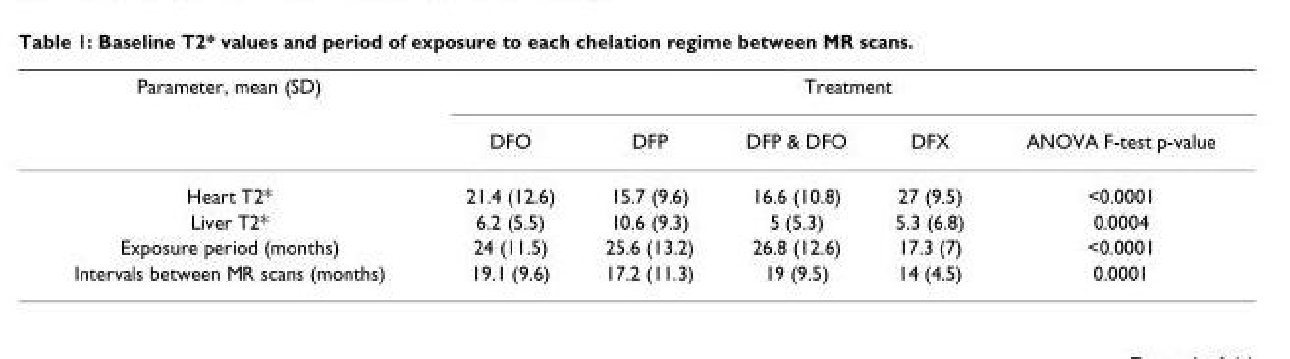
<table><thead><tr><td rowspan="2">Parameter, mean (SD)</td><td colspan="5">Treatment</td></tr><tr><td>DFO</td><td>DFP</td><td>DFP &amp; DFO</td><td>DFX</td><td>ANOVA F-test p-value</td></tr></thead><tbody><tr><td>Heart T2*</td><td>21.4 (12.6)</td><td>15.7 (9.6)</td><td>16.6 (10.8)</td><td>27 (9.5)</td><td>&lt;0.0001</td></tr><tr><td>Liver T2*</td><td>6.2 (5.5)</td><td>10.6 (9.3)</td><td>5 (5.3)</td><td>5.3 (6.8)</td><td>0.0004</td></tr><tr><td>Exposure period (months)</td><td>24 (11.5)</td><td>25.6 (13.2)</td><td>26.8 (12.6)</td><td>17.3 (7)</td><td>&lt;0.0001</td></tr><tr><td>Intervals between MR scans (months)</td><td>19.1 (9.6)</td><td>17.2 (11.3)</td><td>19 (9.5)</td><td>14 (4.5)</td><td>0.0001</td></tr></tbody></table>